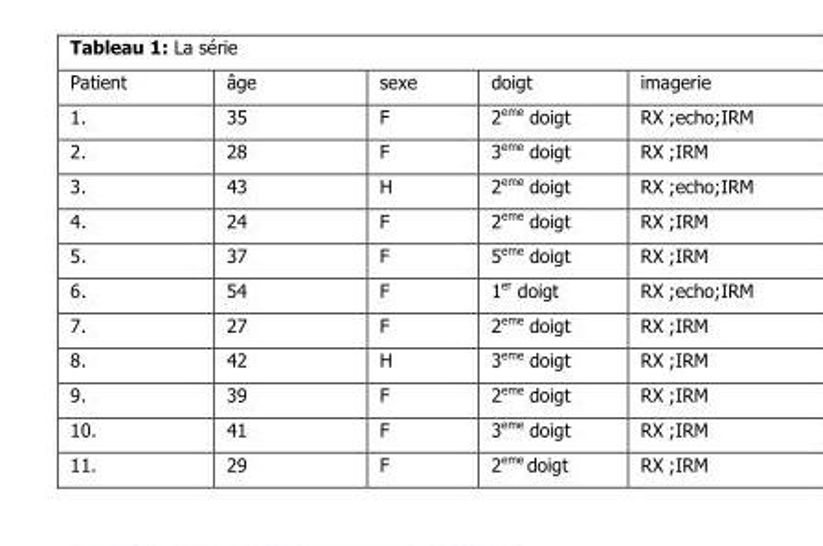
<table><thead><tr><td>Patient</td><td>âge</td><td>sexe</td><td>doigt</td><td>imagerie</td></tr></thead><tbody><tr><td>1.</td><td>35</td><td>F</td><td>2<sup>eme</sup> doigt</td><td>RX ;echo;IRM</td></tr><tr><td>2.</td><td>28</td><td>F</td><td>3<sup>eme</sup> doigt</td><td>RX ;IRM</td></tr><tr><td>3.</td><td>43</td><td>H</td><td>2<sup>eme</sup> doigt</td><td>RX ;echo;IRM</td></tr><tr><td>4.</td><td>24</td><td>F</td><td>2<sup>eme</sup> doigt</td><td>RX ;IRM</td></tr><tr><td>5.</td><td>37</td><td>F</td><td>5<sup>eme</sup> doigt</td><td>RX ;IRM</td></tr><tr><td>6.</td><td>54</td><td>F</td><td>1<sup>er</sup> doigt</td><td>RX ;echo;IRM</td></tr><tr><td>7.</td><td>27</td><td>F</td><td>2<sup>eme</sup> doigt</td><td>RX ;IRM</td></tr><tr><td>8.</td><td>42</td><td>H</td><td>3<sup>eme</sup> doigt</td><td>RX ;IRM</td></tr><tr><td>9.</td><td>39</td><td>F</td><td>2<sup>eme</sup> doigt</td><td>RX ;IRM</td></tr><tr><td>10.</td><td>41</td><td>F</td><td>3<sup>eme</sup> doigt</td><td>RX ;IRM</td></tr><tr><td>11.</td><td>29</td><td>F</td><td>2<sup>eme</sup> doigt</td><td>RX ;IRM</td></tr></tbody></table>